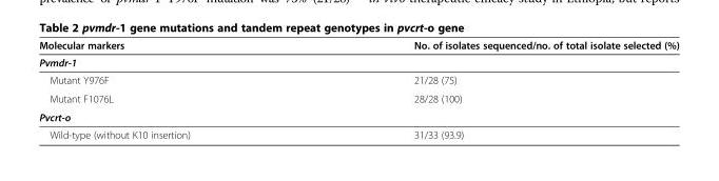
<table><thead><tr><td>Molecular markers</td><td>No. of isolates sequenced/no. of total isolate selected (%)</td></tr></thead><tbody><tr><td colspan="2">Pvmdr-1</td></tr><tr><td>Mutant Y976F</td><td>21/28 (75)</td></tr><tr><td>Mutant F1076L</td><td>28/28 (100)</td></tr><tr><td colspan="2">Pvcrt-o</td></tr><tr><td>Wild-type (without K10 insertion)</td><td>31/33 (93.9)</td></tr></tbody></table>